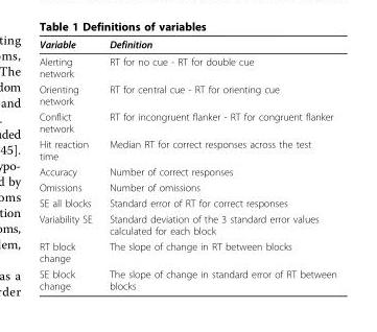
<table><thead><tr><td>Variable</td><td>Definition</td></tr></thead><tbody><tr><td>Alerting network</td><td>RT for no cue - RT for double cue</td></tr><tr><td>Orienting network</td><td>RT for central cue - RT for orienting cue</td></tr><tr><td>Conflict network</td><td>RT for incongruent flanker - RT for congruent flanker</td></tr><tr><td>Hit reaction time</td><td>Median RT for correct responses across the test</td></tr><tr><td>Accuracy</td><td>Number of correct responses</td></tr><tr><td>Omissions</td><td>Number of omissions</td></tr><tr><td>SE all blocks</td><td>Standard error of RT for correct responses</td></tr><tr><td>Variability SE</td><td>Standard deviation of the 3 standard error values calculated for each block</td></tr><tr><td>RT block change</td><td>The slope of change in RT between blocks</td></tr><tr><td>SE block change</td><td>The slope of change in standard error of RT between blocks</td></tr></tbody></table>